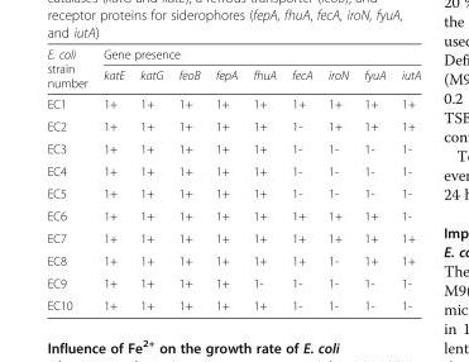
<table><thead><tr><td rowspan="2">E. coli strain number</td><td colspan="9">Gene presence</td></tr><tr><td>katE</td><td>katG</td><td>feoB</td><td>fepA</td><td>fhuA</td><td>fecA</td><td>iroN</td><td>fyuA</td><td>iutA</td></tr></thead><tbody><tr><td>EC1</td><td>1+</td><td>1+</td><td>1+</td><td>1+</td><td>1+</td><td>1+</td><td>1+</td><td>1+</td><td>1+</td></tr><tr><td>EC2</td><td>1+</td><td>1+</td><td>1+</td><td>1+</td><td>1+</td><td>1-</td><td>1+</td><td>1+</td><td>1+</td></tr><tr><td>EC3</td><td>1+</td><td>1+</td><td>1+</td><td>1+</td><td>1+</td><td>1-</td><td>1-</td><td>1-</td><td>1-</td></tr><tr><td>EC4</td><td>1+</td><td>1+</td><td>1+</td><td>1+</td><td>1+</td><td>1-</td><td>1-</td><td>1-</td><td>1-</td></tr><tr><td>EC5</td><td>1+</td><td>1+</td><td>1+</td><td>1+</td><td>1+</td><td>1-</td><td>1-</td><td>1-</td><td>1-</td></tr><tr><td>EC6</td><td>1+</td><td>1+</td><td>1+</td><td>1+</td><td>1+</td><td>1+</td><td>1+</td><td>1+</td><td>1-</td></tr><tr><td>EC7</td><td>1+</td><td>1+</td><td>1+</td><td>1+</td><td>1+</td><td>1+</td><td>1+</td><td>1+</td><td>1+</td></tr><tr><td>EC8</td><td>1+</td><td>1+</td><td>1+</td><td>1+</td><td>1+</td><td>1+</td><td>1-</td><td>1+</td><td>1+</td></tr><tr><td>EC9</td><td>1+</td><td>1+</td><td>1+</td><td>1+</td><td>1-</td><td>1-</td><td>1-</td><td>1-</td><td>1-</td></tr><tr><td>EC10</td><td>1+</td><td>1+</td><td>1+</td><td>1+</td><td>1+</td><td>1-</td><td>1-</td><td>1-</td><td>1-</td></tr></tbody></table>